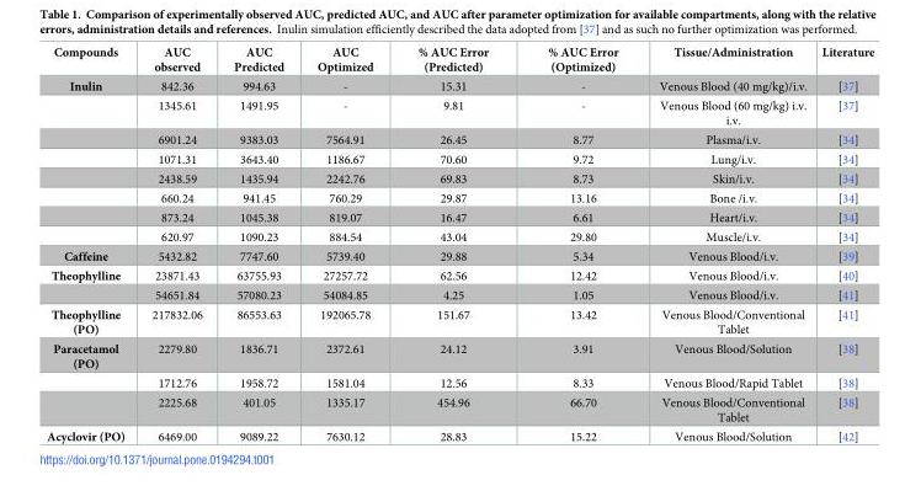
<table><thead><tr><td>Compounds</td><td>AUC observed</td><td>AUC Predicted</td><td>AUC Optimized</td><td>% AUC Error (Predicted)</td><td>% AUC Error (Optimized)</td><td>Tissue/Administration</td><td>Literature</td></tr></thead><tbody><tr><td rowspan="8">Inulin</td><td>842.36</td><td>994.63</td><td>-</td><td>15.31</td><td>-</td><td>Venous Blood (40 mg/kg)/i.v.</td><td>[37]</td></tr><tr><td>1345.61</td><td>1491.95</td><td>-</td><td>9.81</td><td>-</td><td>Venous Blood (60 mg/kg) i.v. i.v.</td><td>[37]</td></tr><tr><td>6901.24</td><td>9383.03</td><td>7564.91</td><td>26.45</td><td>8.77</td><td>Plasma/i.v.</td><td>[34]</td></tr><tr><td>1071.31</td><td>3643.40</td><td>1186.67</td><td>70.60</td><td>9.72</td><td>Lung/i.v.</td><td>[34]</td></tr><tr><td>2438.59</td><td>1435.94</td><td>2242.76</td><td>69.83</td><td>8.73</td><td>Skin/i.v.</td><td>[34]</td></tr><tr><td>660.24</td><td>941.45</td><td>760.29</td><td>29.87</td><td>13.16</td><td>Bone /i.v.</td><td>[34]</td></tr><tr><td>873.24</td><td>1045.38</td><td>819.07</td><td>16.47</td><td>6.61</td><td>Heart/i.v.</td><td>[34]</td></tr><tr><td>620.97</td><td>1090.23</td><td>884.54</td><td>43.04</td><td>29.80</td><td>Muscle/i.v.</td><td>[34]</td></tr><tr><td>Caffeine</td><td>5432.82</td><td>7747.60</td><td>5739.40</td><td>29.88</td><td>5.34</td><td>Venous Blood/i.v.</td><td>[39]</td></tr><tr><td rowspan="2">Theophylline</td><td>23871.43</td><td>63755.93</td><td>27257.72</td><td>62.56</td><td>12.42</td><td>Venous Blood/i.v.</td><td>[40]</td></tr><tr><td>54651.84</td><td>57080.23</td><td>54084.85</td><td>4.25</td><td>1.05</td><td>Venous Blood/i.v.</td><td>[41]</td></tr><tr><td>Theophylline (PO)</td><td>217832.06</td><td>86553.63</td><td>192065.78</td><td>151.67</td><td>13.42</td><td>Venous Blood/Conventional Tablet</td><td>[41]</td></tr><tr><td rowspan="3">Paracetamol (PO)</td><td>2279.80</td><td>1836.71</td><td>2372.61</td><td>24.12</td><td>3.91</td><td>Venous Blood/Solution</td><td>[38]</td></tr><tr><td>1712.76</td><td>1958.72</td><td>1581.04</td><td>12.56</td><td>8.33</td><td>Venous Blood/Rapid Tablet</td><td>[38]</td></tr><tr><td>2225.68</td><td>401.05</td><td>1335.17</td><td>454.96</td><td>66.70</td><td>Venous Blood/Conventional Tablet</td><td>[38]</td></tr><tr><td>Acyclovir (PO)</td><td>6469.00</td><td>9089.22</td><td>7630.12</td><td>28.83</td><td>15.22</td><td>Venous Blood/Solution</td><td>[42]</td></tr></tbody></table>